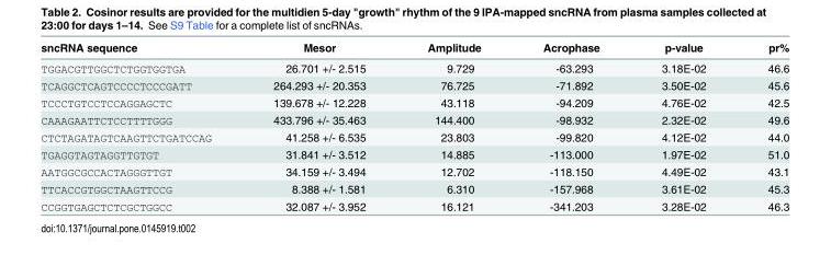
<table><thead><tr><td>sncRNA sequence</td><td>Mesor</td><td>Amplitude</td><td>Acrophase</td><td>p-value</td><td>pr%</td></tr></thead><tbody><tr><td>TGGACGTTGGCTCTGGTGGTGA</td><td>26.701 +/- 2.515</td><td>9.729</td><td>-63.293</td><td>3.18E-02</td><td>46.6</td></tr><tr><td>TCAGGCTCAGTCCCCTCCCGATT</td><td>264.293 +/- 20.353</td><td>76.725</td><td>-71.892</td><td>3.50E-02</td><td>45.6</td></tr><tr><td>TCCCTGTCCTCCAGGAGCTC</td><td>139.678 +/- 12.228</td><td>43.118</td><td>-94.209</td><td>4.76E-02</td><td>42.5</td></tr><tr><td>CAAAGAATTCTCCTTTTGGG</td><td>433.796 +/- 35.463</td><td>144.400</td><td>-98.932</td><td>2.32E-02</td><td>49.6</td></tr><tr><td>CTCTAGATAGTCAAGTTCTGATCCAG</td><td>41.258 +/- 6.535</td><td>23.803</td><td>-99.820</td><td>4.12E-02</td><td>44.0</td></tr><tr><td>TGAGGTAGTAGGTTGTGT</td><td>31.841 +/- 3.512</td><td>14.885</td><td>-113.000</td><td>1.97E-02</td><td>51.0</td></tr><tr><td>AATGGCGCCACTAGGGTTGT</td><td>34.159 +/- 3.494</td><td>12.702</td><td>-118.150</td><td>4.49E-02</td><td>43.1</td></tr><tr><td>TTCACCGTGGCTAAGTTCCG</td><td>8.388 +/- 1.581</td><td>6.310</td><td>-157.968</td><td>3.61E-02</td><td>45.3</td></tr><tr><td>CCGGTGAGCTCTCGCTGGCC</td><td>32.087 +/- 3.952</td><td>16.121</td><td>-341.203</td><td>3.28E-02</td><td>46.3</td></tr></tbody></table>